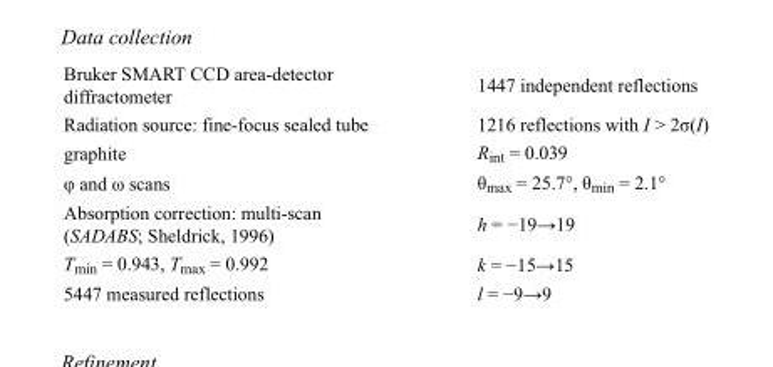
<table><tbody><tr><td>Bruker SMART CCD area-detector diffractometer</td><td>1447 independent reflections</td></tr><tr><td>Radiation source: fine-focus sealed tube</td><td>1216 reflections with I &gt; 2σ(I)</td></tr><tr><td>graphite</td><td>R<sub>int</sub> = 0.039</td></tr><tr><td>φ and ω scans</td><td>θ<sub>max</sub> = 25.7°, θ<sub>min</sub> = 2.1°</td></tr><tr><td>Absorption correction: multi-scan (SADABS; Sheldrick, 1996)</td><td>h = −19→19</td></tr><tr><td>T<sub>min</sub> = 0.943, T<sub>max</sub> = 0.992</td><td>k = −15→15</td></tr><tr><td>5447 measured reflections</td><td>l = −9→9</td></tr></tbody></table>